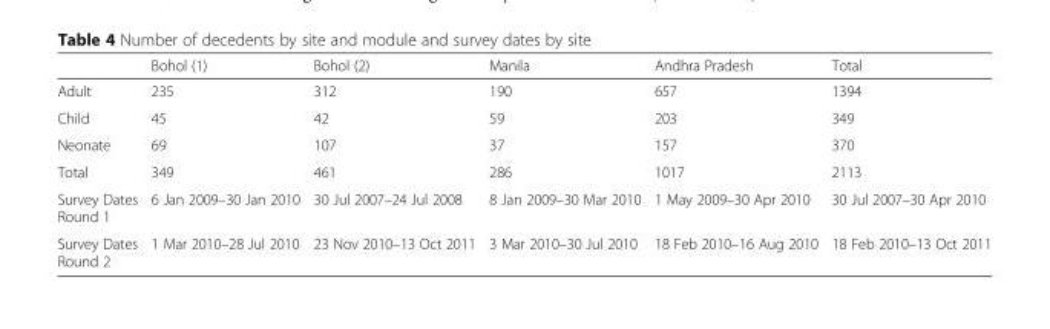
<table><thead><tr><td></td><td>Bohol (1)</td><td>Bohol (2)</td><td>Manila</td><td>Andhra Pradesh</td><td>Total</td></tr></thead><tbody><tr><td>Adult</td><td>235</td><td>312</td><td>190</td><td>657</td><td>1394</td></tr><tr><td>Child</td><td>45</td><td>42</td><td>59</td><td>203</td><td>349</td></tr><tr><td>Neonate</td><td>69</td><td>107</td><td>37</td><td>157</td><td>370</td></tr><tr><td>Total</td><td>349</td><td>461</td><td>286</td><td>1017</td><td>2113</td></tr><tr><td>Survey Dates Round 1</td><td>6 Jan 2009–30 Jan 2010</td><td>30 Jul 2007–24 Jul 2008</td><td>8 Jan 2009–30 Mar 2010</td><td>1 May 2009–30 Apr 2010</td><td>30 Jul 2007–30 Apr 2010</td></tr><tr><td>Survey Dates Round 2</td><td>1 Mar 2010–28 Jul 2010</td><td>23 Nov 2010–13 Oct 2011</td><td>3 Mar 2010–30 Jul 2010</td><td>18 Feb 2010–16 Aug 2010</td><td>18 Feb 2010–13 Oct 2011</td></tr></tbody></table>